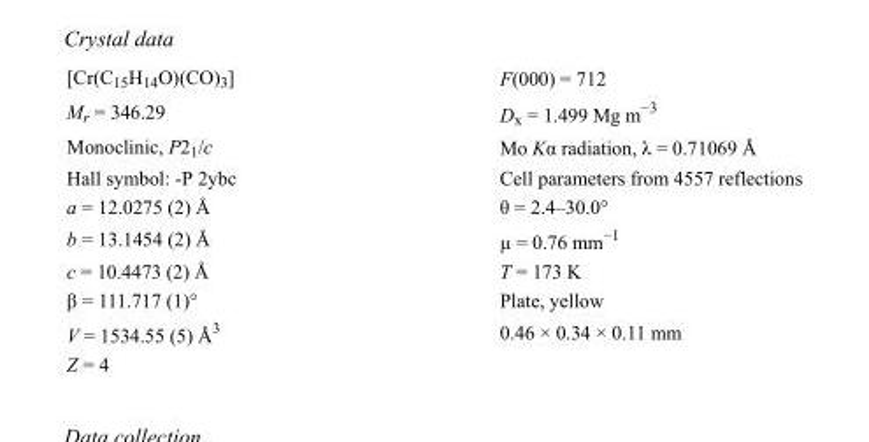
<table><tbody><tr><td>[Cr(C<sub>15</sub>H<sub>14</sub>O)(CO)<sub>3</sub>]</td><td>F(000) = 712</td></tr><tr><td>M<sub>r</sub> = 346.29</td><td>D<sub>x</sub> = 1.499 Mg m<sup>−3</sup></td></tr><tr><td>Monoclinic, P2<sub>1</sub>/c</td><td>Mo Kα radiation, λ = 0.71069 Å</td></tr><tr><td>Hall symbol: -P 2ybc</td><td>Cell parameters from 4557 reflections</td></tr><tr><td>a = 12.0275 (2) Å</td><td>θ = 2.4–30.0°</td></tr><tr><td>b = 13.1454 (2) Å</td><td>µ = 0.76 mm<sup>−1</sup></td></tr><tr><td>c = 10.4473 (2) Å</td><td>T = 173 K</td></tr><tr><td>β = 111.717 (1)°</td><td>Plate, yellow</td></tr><tr><td>V = 1534.55 (5) Å<sup>3</sup></td><td>0.46 × 0.34 × 0.11 mm</td></tr><tr><td>Z = 4</td><td></td></tr></tbody></table>